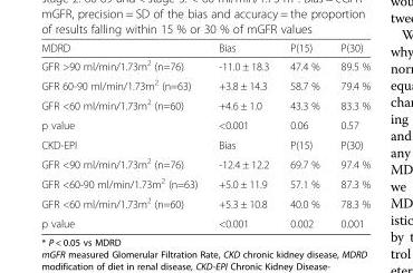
<table><thead><tr><td>MDRD</td><td>Bias</td><td>P(15)</td><td>P(30)</td></tr></thead><tbody><tr><td>GFR &gt;90 ml/min/1.73m<sup>2</sup> (n=76)</td><td>-11.0 ± 18.3</td><td>47.4 %</td><td>89.5 %</td></tr><tr><td>GFR 60-90 ml/min/1.73m<sup>2</sup> (n=63)</td><td>+3.8 ± 14.3</td><td>58.7 %</td><td>79.4 %</td></tr><tr><td>GFR &lt;60 ml/min/1.73m<sup>2</sup> (n=60)</td><td>+4.6 ± 1.0</td><td>43.3 %</td><td>83.3 %</td></tr><tr><td>p value</td><td>&lt;0.001</td><td>0.06</td><td>0.57</td></tr><tr><td>CKD-EPI</td><td>Bias</td><td>P(15)</td><td>P(30)</td></tr><tr><td>GFR &lt;90 ml/min/1.73m<sup>2</sup> (n=76)</td><td>-12.4 ± 12.2</td><td>69.7 %</td><td>97.4 %</td></tr><tr><td>GFR &lt;60-90 ml/min/1.73m<sup>2</sup> (n=63)</td><td>+5.0 ± 11.9</td><td>57.1 %</td><td>87.3 %</td></tr><tr><td>GFR &lt;60 ml/min/1.73m<sup>2</sup> (n=60)</td><td>+5.3 ± 10.8</td><td>40.0 %</td><td>78.3 %</td></tr><tr><td>p value</td><td>&lt;0.001</td><td>0.002</td><td>0.001</td></tr></tbody></table>